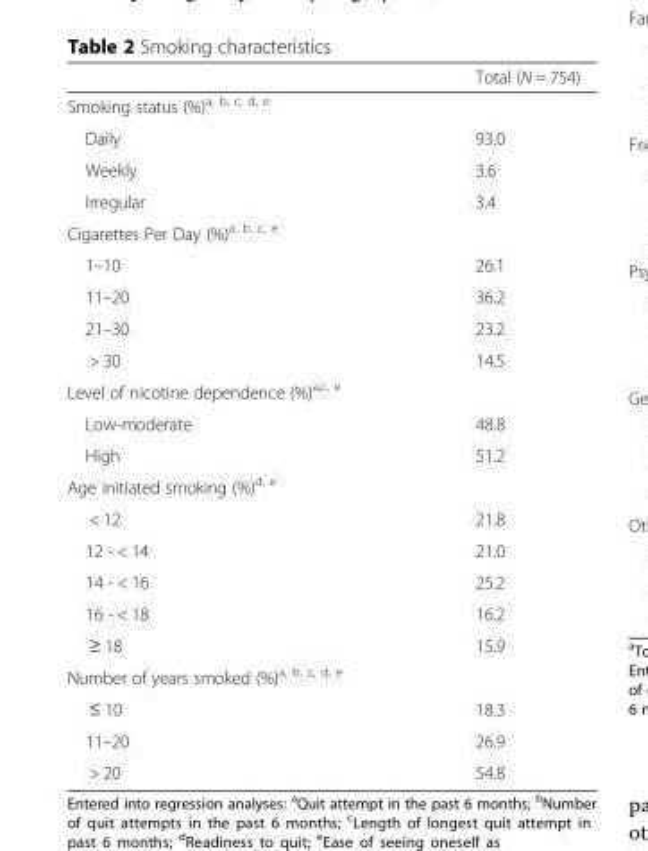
<table><thead><tr><td></td><td>Total (N = 754)</td></tr></thead><tbody><tr><td colspan="2">Smoking status (%)<sup>a, b, c, d, e</sup></td></tr><tr><td>Daily</td><td>93.0</td></tr><tr><td>Weekly</td><td>3.6</td></tr><tr><td>Irregular</td><td>3.4</td></tr><tr><td colspan="2">Cigarettes Per Day (%)<sup>a, b, c, e</sup></td></tr><tr><td>1–10</td><td>26.1</td></tr><tr><td>11–20</td><td>36.2</td></tr><tr><td>21–30</td><td>23.2</td></tr><tr><td>&gt; 30</td><td>14.5</td></tr><tr><td colspan="2">Level of nicotine dependence (%)<sup>a,c, e</sup></td></tr><tr><td>Low-moderate</td><td>48.8</td></tr><tr><td>High</td><td>51.2</td></tr><tr><td colspan="2">Age initiated smoking (%)<sup>d, e</sup></td></tr><tr><td>&lt; 12</td><td>21.8</td></tr><tr><td>12 - &lt; 14</td><td>21.0</td></tr><tr><td>14 - &lt; 16</td><td>25.2</td></tr><tr><td>16 - &lt; 18</td><td>16.2</td></tr><tr><td>≥ 18</td><td>15.9</td></tr><tr><td colspan="2">Number of years smoked (%)<sup>a, b, c, d, e</sup></td></tr><tr><td>≤ 10</td><td>18.3</td></tr><tr><td>11–20</td><td>26.9</td></tr><tr><td>&gt; 20</td><td>54.8</td></tr></tbody></table>